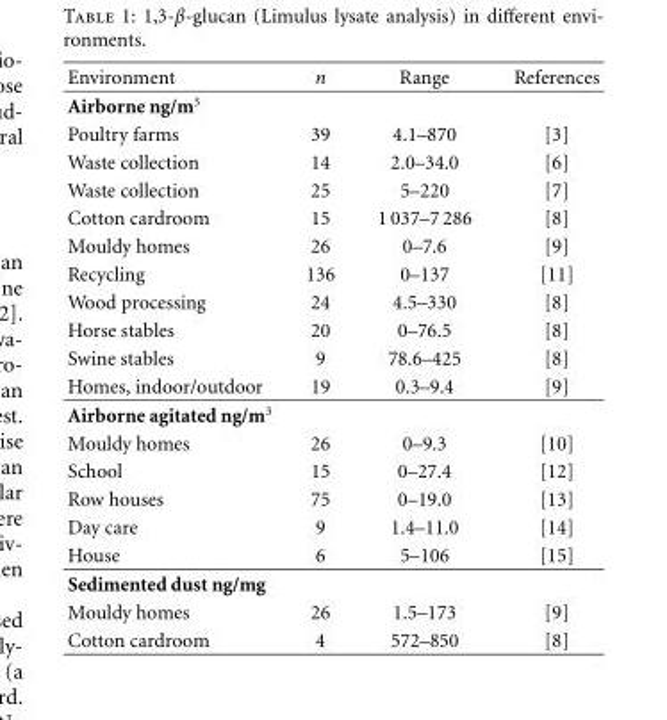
<table><thead><tr><td>Environment</td><td>n</td><td>Range</td><td>References</td></tr></thead><tbody><tr><td colspan="4">Airborne ng/m<sup>3</sup></td></tr><tr><td>Poultry farms</td><td>39</td><td>4.1–870</td><td>[3]</td></tr><tr><td>Waste collection</td><td>14</td><td>2.0–34.0</td><td>[6]</td></tr><tr><td>Waste collection</td><td>25</td><td>5–220</td><td>[7]</td></tr><tr><td>Cotton cardroom</td><td>15</td><td>1 037–7 286</td><td>[8]</td></tr><tr><td>Mouldy homes</td><td>26</td><td>0–7.6</td><td>[9]</td></tr><tr><td>Recycling</td><td>136</td><td>0–137</td><td>[11]</td></tr><tr><td>Wood processing</td><td>24</td><td>4.5–330</td><td>[8]</td></tr><tr><td>Horse stables</td><td>20</td><td>0–76.5</td><td>[8]</td></tr><tr><td>Swine stables</td><td>9</td><td>78.6–425</td><td>[8]</td></tr><tr><td>Homes, indoor/outdoor</td><td>19</td><td>0.3–9.4</td><td>[9]</td></tr><tr><td colspan="4">Airborne agitated ng/m<sup>3</sup></td></tr><tr><td>Mouldy homes</td><td>26</td><td>0–9.3</td><td>[10]</td></tr><tr><td>School</td><td>15</td><td>0–27.4</td><td>[12]</td></tr><tr><td>Row houses</td><td>75</td><td>0–19.0</td><td>[13]</td></tr><tr><td>Day care</td><td>9</td><td>1.4–11.0</td><td>[14]</td></tr><tr><td>House</td><td>6</td><td>5–106</td><td>[15]</td></tr><tr><td colspan="4">Sedimented dust ng/mg</td></tr><tr><td>Mouldy homes</td><td>26</td><td>1.5–173</td><td>[9]</td></tr><tr><td>Cotton cardroom</td><td>4</td><td>572–850</td><td>[8]</td></tr></tbody></table>